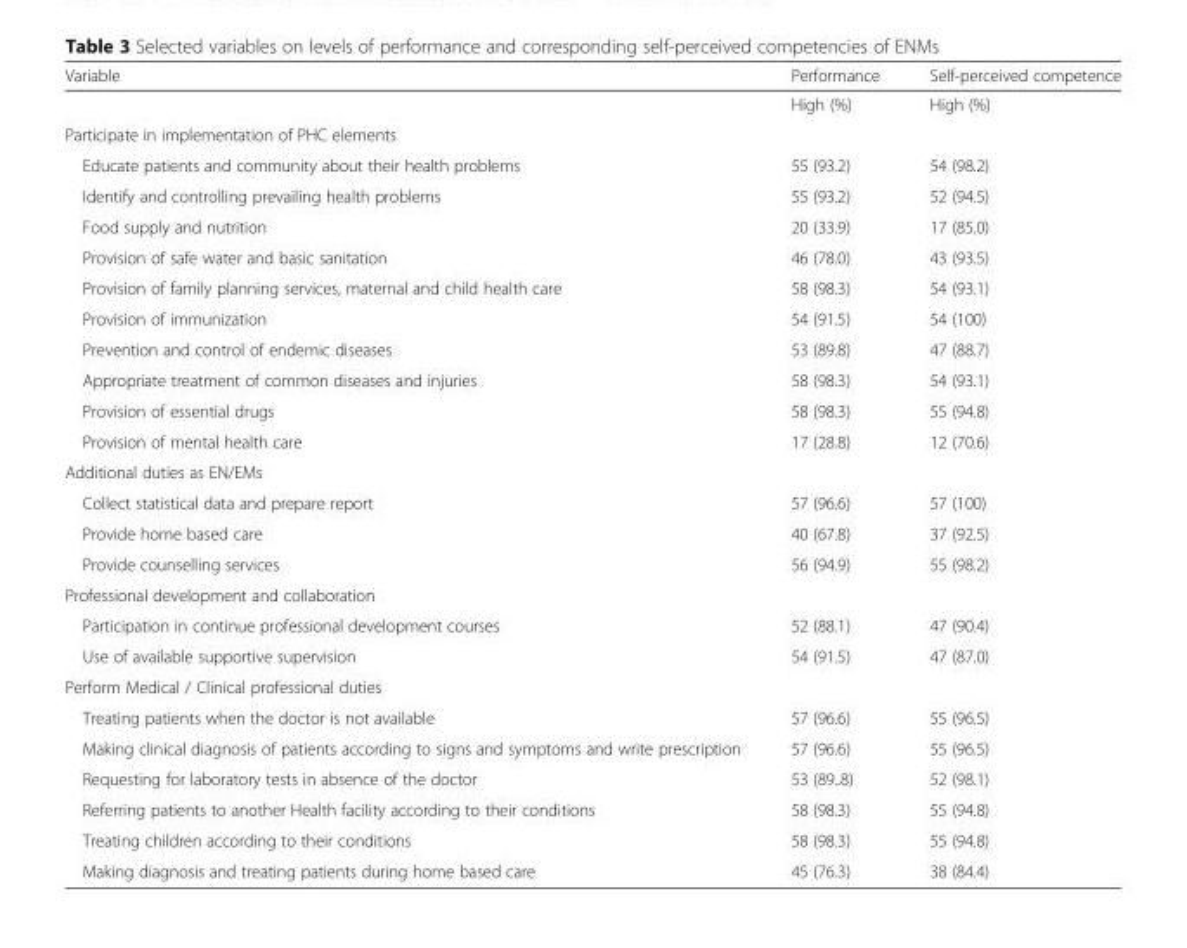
<table><thead><tr><td>Variable</td><td>Performance</td><td>Self-perceived competence</td></tr></thead><tbody><tr><td></td><td>High (%)</td><td>High (%)</td></tr><tr><td colspan="3">Participate in implementation of PHC elements</td></tr><tr><td>Educate patients and community about their health problems</td><td>55 (93.2)</td><td>54 (98.2)</td></tr><tr><td>Identify and controlling prevailing health problems</td><td>55 (93.2)</td><td>52 (94.5)</td></tr><tr><td>Food supply and nutrition</td><td>20 (33.9)</td><td>17 (85.0)</td></tr><tr><td>Provision of safe water and basic sanitation</td><td>46 (78.0)</td><td>43 (93.5)</td></tr><tr><td>Provision of family planning services, maternal and child health care</td><td>58 (98.3)</td><td>54 (93.1)</td></tr><tr><td>Provision of immunization</td><td>54 (91.5)</td><td>54 (100)</td></tr><tr><td>Prevention and control of endemic diseases</td><td>53 (89.8)</td><td>47 (88.7)</td></tr><tr><td>Appropriate treatment of common diseases and injuries</td><td>58 (98.3)</td><td>54 (93.1)</td></tr><tr><td>Provision of essential drugs</td><td>58 (98.3)</td><td>55 (94.8)</td></tr><tr><td>Provision of mental health care</td><td>17 (28.8)</td><td>12 (70.6)</td></tr><tr><td colspan="3">Additional duties as EN/EMs</td></tr><tr><td>Collect statistical data and prepare report</td><td>57 (96.6)</td><td>57 (100)</td></tr><tr><td>Provide home based care</td><td>40 (67.8)</td><td>37 (92.5)</td></tr><tr><td>Provide counselling services</td><td>56 (94.9)</td><td>55 (98.2)</td></tr><tr><td colspan="3">Professional development and collaboration</td></tr><tr><td>Participation in continue professional development courses</td><td>52 (88.1)</td><td>47 (90.4)</td></tr><tr><td>Use of available supportive supervision</td><td>54 (91.5)</td><td>47 (87.0)</td></tr><tr><td colspan="3">Perform Medical / Clinical professional duties</td></tr><tr><td>Treating patients when the doctor is not available</td><td>57 (96.6)</td><td>55 (96.5)</td></tr><tr><td>Making clinical diagnosis of patients according to signs and symptoms and write prescription</td><td>57 (96.6)</td><td>55 (96.5)</td></tr><tr><td>Requesting for laboratory tests in absence of the doctor</td><td>53 (89..8)</td><td>52 (98.1)</td></tr><tr><td>Referring patients to another Health facility according to their conditions</td><td>58 (98.3)</td><td>55 (94.8)</td></tr><tr><td>Treating children according to their conditions</td><td>58 (98.3)</td><td>55 (94.8)</td></tr><tr><td>Making diagnosis and treating patients during home based care</td><td>45 (76.3)</td><td>38 (84.4)</td></tr></tbody></table>